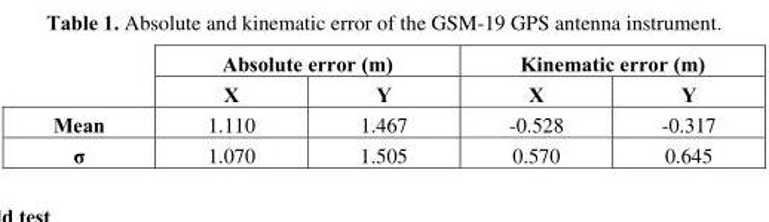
<table><thead><tr><td rowspan="2"></td><td colspan="2">Absolute error (m)</td><td colspan="2">Kinematic error (m)</td></tr><tr><td>X</td><td>Y</td><td>X</td><td>Y</td></tr></thead><tbody><tr><td>Mean</td><td>1.110</td><td>1.467</td><td>-0.528</td><td>-0.317</td></tr><tr><td>σ</td><td>1.070</td><td>1.505</td><td>0.570</td><td>0.645</td></tr></tbody></table>